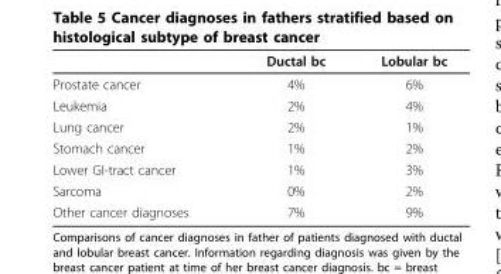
<table><thead><tr><td></td><td>Ductal bc</td><td>Lobular bc</td></tr></thead><tbody><tr><td>Prostate cancer</td><td>4%</td><td>6%</td></tr><tr><td>Leukemia</td><td>2%</td><td>4%</td></tr><tr><td>Lung cancer</td><td>2%</td><td>1%</td></tr><tr><td>Stomach cancer</td><td>1%</td><td>2%</td></tr><tr><td>Lower GI-tract cancer</td><td>1%</td><td>3%</td></tr><tr><td>Sarcoma</td><td>0%</td><td>2%</td></tr><tr><td>Other cancer diagnoses</td><td>7%</td><td>9%</td></tr></tbody></table>